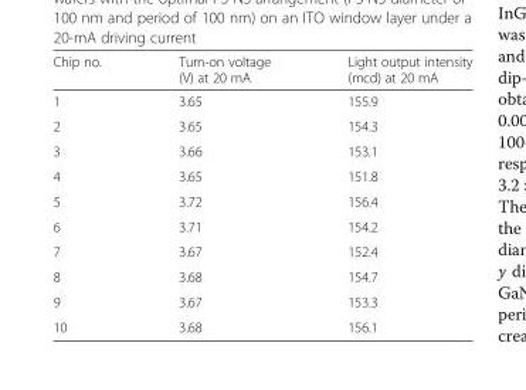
<table><thead><tr><td>Chip no.</td><td>Turn-on voltage (V) at 20 mA</td><td>Light output intensity (mcd) at 20 mA</td></tr></thead><tbody><tr><td>1</td><td>3.65</td><td>155.9</td></tr><tr><td>2</td><td>3.65</td><td>154.3</td></tr><tr><td>3</td><td>3.66</td><td>153.1</td></tr><tr><td>4</td><td>3.65</td><td>151.8</td></tr><tr><td>5</td><td>3.72</td><td>156.4</td></tr><tr><td>6</td><td>3.71</td><td>154.2</td></tr><tr><td>7</td><td>3.67</td><td>152.4</td></tr><tr><td>8</td><td>3.68</td><td>154.7</td></tr><tr><td>9</td><td>3.67</td><td>153.3</td></tr><tr><td>10</td><td>3.68</td><td>156.1</td></tr></tbody></table>